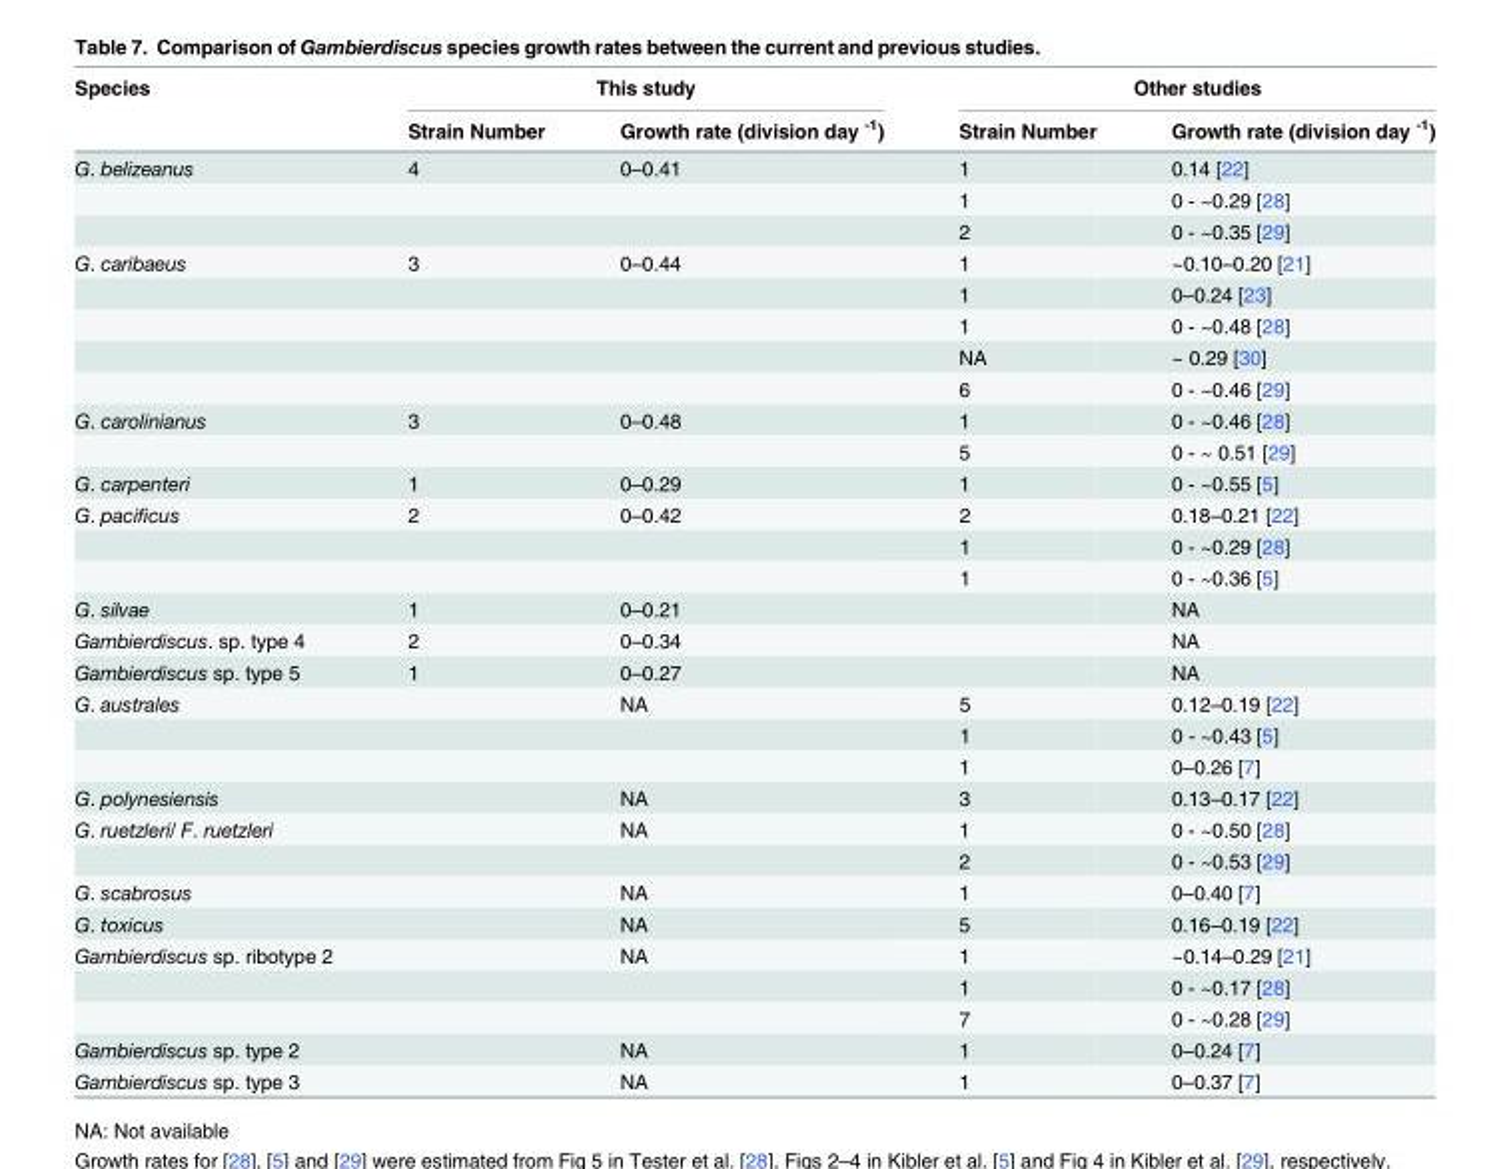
<table><thead><tr><td rowspan="2">Species</td><td colspan="2">This study</td><td colspan="2">Other studies</td></tr><tr><td>Strain Number</td><td>Growth rate (division day <sup>-1</sup>)</td><td>Strain Number</td><td>Growth rate (division day <sup>-1</sup>)</td></tr></thead><tbody><tr><td rowspan="3">G. belizeanus</td><td>4</td><td>0–0.41</td><td>1</td><td>0.14 [22]</td></tr><tr><td></td><td></td><td>1</td><td>0 - ~0.29 [28]</td></tr><tr><td></td><td></td><td>2</td><td>0 - ~0.35 [29]</td></tr><tr><td rowspan="5">G. caribaeus</td><td>3</td><td>0–0.44</td><td>1</td><td>~0.10–0.20 [21]</td></tr><tr><td></td><td></td><td>1</td><td>0–0.24 [23]</td></tr><tr><td></td><td></td><td>1</td><td>0 - ~0.48 [28]</td></tr><tr><td></td><td></td><td>NA</td><td>~ 0.29 [30]</td></tr><tr><td></td><td></td><td>6</td><td>0 - ~0.46 [29]</td></tr><tr><td rowspan="2">G. carolinianus</td><td>3</td><td>0–0.48</td><td>1</td><td>0 - ~0.46 [28]</td></tr><tr><td></td><td></td><td>5</td><td>0 - ~ 0.51 [29]</td></tr><tr><td>G. carpenteri</td><td>1</td><td>0–0.29</td><td>1</td><td>0 - ~0.55 [5]</td></tr><tr><td rowspan="3">G. pacificus</td><td>2</td><td>0–0.42</td><td>2</td><td>0.18–0.21 [22]</td></tr><tr><td></td><td></td><td>1</td><td>0 - ~0.29 [28]</td></tr><tr><td></td><td></td><td>1</td><td>0 - ~0.36 [5]</td></tr><tr><td>G. silvae</td><td>1</td><td>0–0.21</td><td></td><td>NA</td></tr><tr><td>Gambierdiscus. sp. type 4</td><td>2</td><td>0–0.34</td><td></td><td>NA</td></tr><tr><td>Gambierdiscus sp. type 5</td><td>1</td><td>0–0.27</td><td></td><td>NA</td></tr><tr><td rowspan="3">G. australes</td><td></td><td>NA</td><td>5</td><td>0.12–0.19 [22]</td></tr><tr><td></td><td></td><td>1</td><td>0 - ~0.43 [5]</td></tr><tr><td></td><td></td><td>1</td><td>0–0.26 [7]</td></tr><tr><td>G. polynesiensis</td><td></td><td>NA</td><td>3</td><td>0.13–0.17 [22]</td></tr><tr><td rowspan="2">G. ruetzleri/ F. ruetzleri</td><td></td><td>NA</td><td>1</td><td>0 - ~0.50 [28]</td></tr><tr><td></td><td></td><td>2</td><td>0 - ~0.53 [29]</td></tr><tr><td>G. scabrosus</td><td></td><td>NA</td><td>1</td><td>0–0.40 [7]</td></tr><tr><td>G. toxicus</td><td></td><td>NA</td><td>5</td><td>0.16–0.19 [22]</td></tr><tr><td rowspan="3">Gambierdiscus sp. ribotype 2</td><td></td><td>NA</td><td>1</td><td>~0.14–0.29 [21]</td></tr><tr><td></td><td></td><td>1</td><td>0 - ~0.17 [28]</td></tr><tr><td></td><td></td><td>7</td><td>0 - ~0.28 [29]</td></tr><tr><td>Gambierdiscus sp. type 2</td><td></td><td>NA</td><td>1</td><td>0–0.24 [7]</td></tr><tr><td>Gambierdiscus sp. type 3</td><td></td><td>NA</td><td>1</td><td>0–0.37 [7]</td></tr></tbody></table>